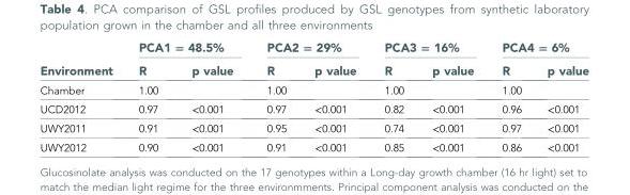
<table><thead><tr><td rowspan="2">Environment</td><td colspan="2">PCA1 = 48.5%</td><td colspan="2">PCA2 = 29%</td><td colspan="2">PCA3 = 16%</td><td colspan="2">PCA4 = 6%</td></tr><tr><td>R</td><td>p value</td><td>R</td><td>p value</td><td>R</td><td>p value</td><td>R</td><td>p value</td></tr></thead><tbody><tr><td>Chamber</td><td>1.00</td><td></td><td>1.00</td><td></td><td>1.00</td><td></td><td>1.00</td><td></td></tr><tr><td>UCD2012</td><td>0.97</td><td>&lt;0.001</td><td>0.97</td><td>&lt;0.001</td><td>0.82</td><td>&lt;0.001</td><td>0.96</td><td>&lt;0.001</td></tr><tr><td>UWY2011</td><td>0.91</td><td>&lt;0.001</td><td>0.95</td><td>&lt;0.001</td><td>0.74</td><td>&lt;0.001</td><td>0.97</td><td>&lt;0.001</td></tr><tr><td>UWY2012</td><td>0.90</td><td>&lt;0.001</td><td>0.91</td><td>&lt;0.001</td><td>0.85</td><td>&lt;0.001</td><td>0.86</td><td>&lt;0.001</td></tr></tbody></table>